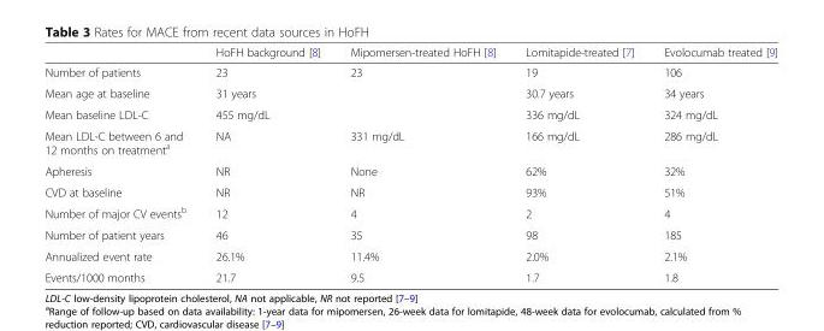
<table><thead><tr><td></td><td>HoFH background [8]</td><td>Mipomersen-treated HoFH [8]</td><td>Lomitapide-treated [7]</td><td>Evolocumab treated [9]</td></tr></thead><tbody><tr><td>Number of patients</td><td>23</td><td>23</td><td>19</td><td>106</td></tr><tr><td>Mean age at baseline</td><td colspan="2">31 years</td><td>30.7 years</td><td>34 years</td></tr><tr><td>Mean baseline LDL-C</td><td colspan="2">455 mg/dL</td><td>336 mg/dL</td><td>324 mg/dL</td></tr><tr><td>Mean LDL-C between 6 and 12 months on treatment<sup>a</sup></td><td>NA</td><td>331 mg/dL</td><td>166 mg/dL</td><td>286 mg/dL</td></tr><tr><td>Apheresis</td><td>NR</td><td>None</td><td>62%</td><td>32%</td></tr><tr><td>CVD at baseline</td><td>NR</td><td>NR</td><td>93%</td><td>51%</td></tr><tr><td>Number of major CV events<sup>b</sup></td><td>12</td><td>4</td><td>2</td><td>4</td></tr><tr><td>Number of patient years</td><td>46</td><td>35</td><td>98</td><td>185</td></tr><tr><td>Annualized event rate</td><td>26.1%</td><td>11.4%</td><td>2.0%</td><td>2.1%</td></tr><tr><td>Events/1000 months</td><td>21.7</td><td>9.5</td><td>1.7</td><td>1.8</td></tr></tbody></table>